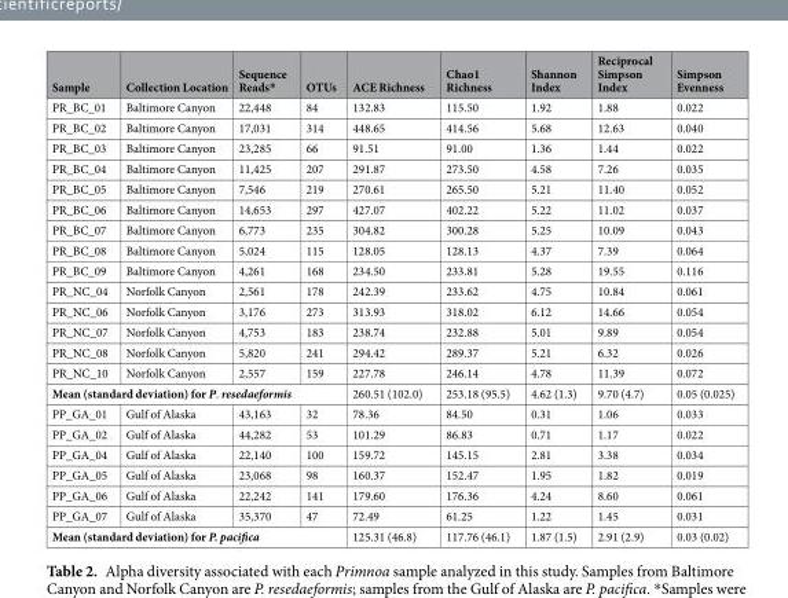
<table><thead><tr><td>Sample</td><td>Collection Location</td><td>Sequence Reads*</td><td>OTUs</td><td>ACE Richness</td><td>Chao1 Richness</td><td>Shannon Index</td><td>Reciprocal Simpson Index</td><td>Simpson Evenness</td></tr></thead><tbody><tr><td>PR_BC_01</td><td>Baltimore Canyon</td><td>22,448</td><td>84</td><td>132.83</td><td>115.50</td><td>1.92</td><td>1.88</td><td>0.022</td></tr><tr><td>PR_BC_02</td><td>Baltimore Canyon</td><td>17,031</td><td>314</td><td>448.65</td><td>414.56</td><td>5.68</td><td>12.63</td><td>0.040</td></tr><tr><td>PR_BC_03</td><td>Baltimore Canyon</td><td>23,285</td><td>66</td><td>91.51</td><td>91.00</td><td>1.36</td><td>1.44</td><td>0.022</td></tr><tr><td>PR_BC_04</td><td>Baltimore Canyon</td><td>11,425</td><td>207</td><td>291.87</td><td>273.50</td><td>4.58</td><td>7.26</td><td>0.035</td></tr><tr><td>PR_BC_05</td><td>Baltimore Canyon</td><td>7,546</td><td>219</td><td>270.61</td><td>265.50</td><td>5.21</td><td>11.40</td><td>0.052</td></tr><tr><td>PR_BC_06</td><td>Baltimore Canyon</td><td>14,653</td><td>297</td><td>427.07</td><td>402.22</td><td>5.22</td><td>11.02</td><td>0.037</td></tr><tr><td>PR_BC_07</td><td>Baltimore Canyon</td><td>6,773</td><td>235</td><td>304.82</td><td>300.28</td><td>5.25</td><td>10.09</td><td>0.043</td></tr><tr><td>PR_BC_08</td><td>Baltimore Canyon</td><td>5,024</td><td>115</td><td>128.05</td><td>128.13</td><td>4.37</td><td>7.39</td><td>0.064</td></tr><tr><td>PR_BC_09</td><td>Baltimore Canyon</td><td>4,261</td><td>168</td><td>234.50</td><td>233.81</td><td>5.28</td><td>19.55</td><td>0.116</td></tr><tr><td>PR_NC_04</td><td>Norfolk Canyon</td><td>2,561</td><td>178</td><td>242.39</td><td>233.62</td><td>4.75</td><td>10.84</td><td>0.061</td></tr><tr><td>PR_NC_06</td><td>Norfolk Canyon</td><td>3,176</td><td>273</td><td>313.93</td><td>318.02</td><td>6.12</td><td>14.66</td><td>0.054</td></tr><tr><td>PR_NC_07</td><td>Norfolk Canyon</td><td>4,753</td><td>183</td><td>238.74</td><td>232.88</td><td>5.01</td><td>9.89</td><td>0.054</td></tr><tr><td>PR_NC_08</td><td>Norfolk Canyon</td><td>5,820</td><td>241</td><td>294.42</td><td>289.37</td><td>5.21</td><td>6.32</td><td>0.026</td></tr><tr><td>PR_NC_10</td><td>Norfolk Canyon</td><td>2,557</td><td>159</td><td>227.78</td><td>246.14</td><td>4.78</td><td>11.39</td><td>0.072</td></tr><tr><td colspan="4">Mean (standard deviation) for P. resedaeformis</td><td>260.51 (102.0)</td><td>253.18 (95.5)</td><td>4.62 (1.3)</td><td>9.70 (4.7)</td><td>0.05 (0.025)</td></tr><tr><td>PP_GA_01</td><td>Gulf of Alaska</td><td>43,163</td><td>32</td><td>78.36</td><td>84.50</td><td>0.31</td><td>1.06</td><td>0.033</td></tr><tr><td>PP_GA_02</td><td>Gulf of Alaska</td><td>44,282</td><td>53</td><td>101.29</td><td>86.83</td><td>0.71</td><td>1.17</td><td>0.022</td></tr><tr><td>PP_GA_04</td><td>Gulf of Alaska</td><td>22,140</td><td>100</td><td>159.72</td><td>145.15</td><td>2.81</td><td>3.38</td><td>0.034</td></tr><tr><td>PP_GA_05</td><td>Gulf of Alaska</td><td>23,068</td><td>98</td><td>160.37</td><td>152.47</td><td>1.95</td><td>1.82</td><td>0.019</td></tr><tr><td>PP_GA_06</td><td>Gulf of Alaska</td><td>22,242</td><td>141</td><td>179.60</td><td>176.36</td><td>4.24</td><td>8.60</td><td>0.061</td></tr><tr><td>PP_GA_07</td><td>Gulf of Alaska</td><td>35,370</td><td>47</td><td>72.49</td><td>61.25</td><td>1.22</td><td>1.45</td><td>0.031</td></tr><tr><td colspan="4">Mean (standard deviation) for P. pacifica</td><td>125.31 (46.8)</td><td>117.76 (46.1)</td><td>1.87 (1.5)</td><td>2.91 (2.9)</td><td>0.03 (0.02)</td></tr></tbody></table>